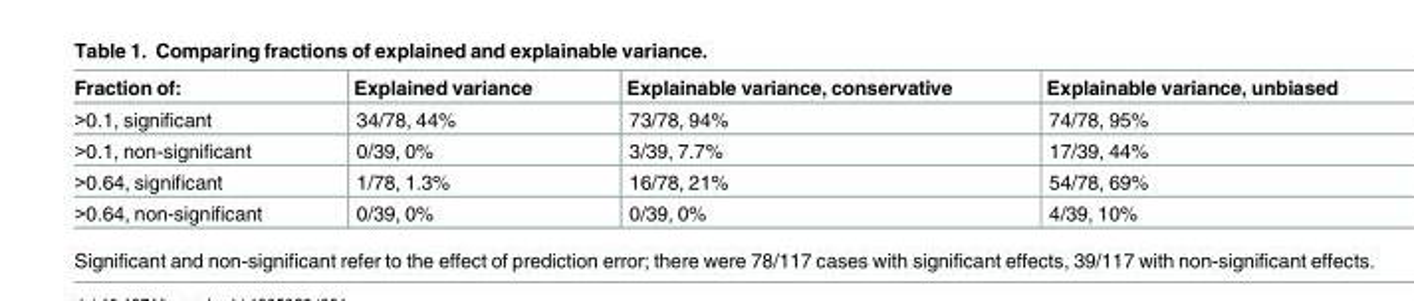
<table><thead><tr><td>Fraction of:</td><td>Explained variance</td><td>Explainable variance, conservative</td><td>Explainable variance, unbiased</td></tr></thead><tbody><tr><td>&gt;0.1, significant</td><td>34/78, 44%</td><td>73/78, 94%</td><td>74/78, 95%</td></tr><tr><td>&gt;0.1, non-significant</td><td>0/39, 0%</td><td>3/39, 7.7%</td><td>17/39, 44%</td></tr><tr><td>&gt;0.64, significant</td><td>1/78, 1.3%</td><td>16/78, 21%</td><td>54/78, 69%</td></tr><tr><td>&gt;0.64, non-significant</td><td>0/39, 0%</td><td>0/39, 0%</td><td>4/39, 10%</td></tr></tbody></table>